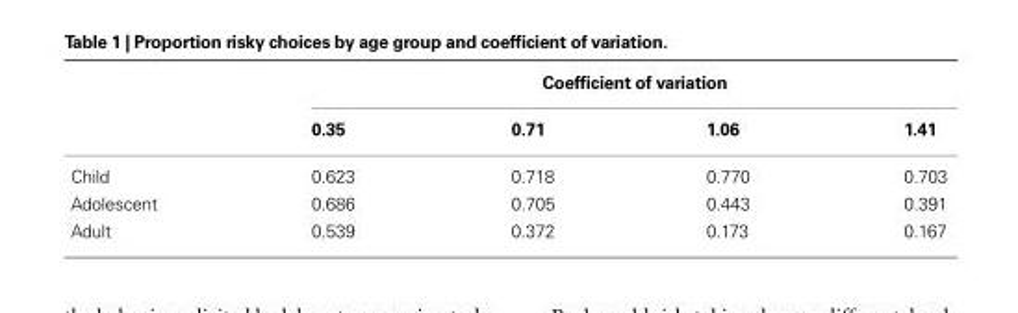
<table><thead><tr><td rowspan="2"></td><td colspan="4">Coefficient of variation</td></tr><tr><td>0.35</td><td>0.71</td><td>1.06</td><td>1.41</td></tr></thead><tbody><tr><td>Child</td><td>0.623</td><td>0.718</td><td>0.770</td><td>0.703</td></tr><tr><td>Adolescent</td><td>0.686</td><td>0.705</td><td>0.443</td><td>0.391</td></tr><tr><td>Adult</td><td>0.539</td><td>0.372</td><td>0.173</td><td>0.167</td></tr></tbody></table>